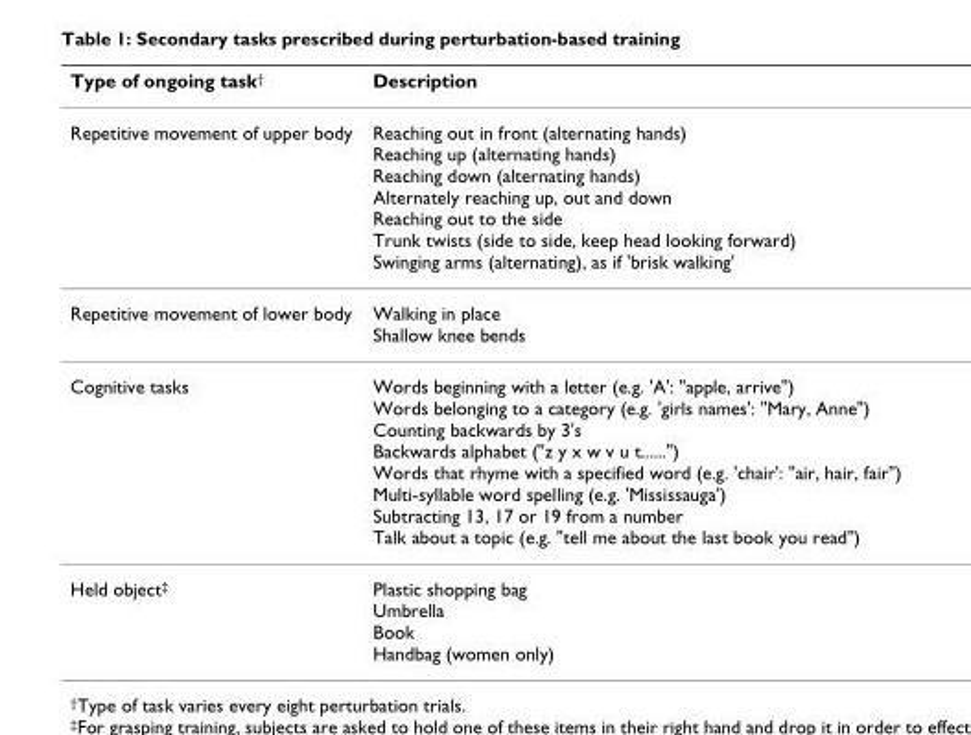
<table><thead><tr><td>Type of ongoing task<sup>†</sup></td><td>Description</td></tr></thead><tbody><tr><td>Repetitive movement of upper body</td><td>Reaching out in front (alternating hands) Reaching up (alternating hands) Reaching down (alternating hands) Alternately reaching up, out and down Reaching out to the side Trunk twists (side to side, keep head looking forward) Swinging arms (alternating), as if &#x27;brisk walking&#x27;</td></tr><tr><td>Repetitive movement of lower body</td><td>Walking in place Shallow knee bends</td></tr><tr><td>Cognitive tasks</td><td>Words beginning with a letter (e.g. &#x27;A&#x27;: &quot;apple, arrive&quot;) Words belonging to a category (e.g. &#x27;girls names&#x27;: &quot;Mary, Anne&quot;) Counting backwards by 3&#x27;s Backwards alphabet (&quot;z y x w v u t......&quot;) Words that rhyme with a specified word (e.g. &#x27;chair&#x27;: &quot;air, hair, fair&quot;) Multi-syllable word spelling (e.g. &#x27;Mississauga&#x27;) Subtracting 13, 17 or 19 from a number Talk about a topic (e.g. &quot;tell me about the last book you read&quot;)</td></tr><tr><td>Held object<sup>‡</sup></td><td>Plastic shopping bag Umbrella Book Handbag (women only)</td></tr></tbody></table>